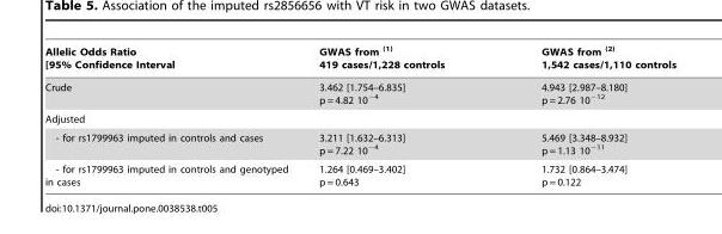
<table><thead><tr><td>Allelic Odds Ratio [95% Confidence Interval</td><td>GWAS from <sup>(1)</sup> 419 cases/1,228 controls</td><td>GWAS from <sup>(2)</sup> 1,542 cases/1,110 controls</td></tr></thead><tbody><tr><td>Crude</td><td>3.462 [1.754–6.835] p = 4.82 10<sup>−4</sup></td><td>4.943 [2.987–8.180] p = 2.76 10<sup>−12</sup></td></tr><tr><td colspan="3">Adjusted</td></tr><tr><td>- for rs1799963 imputed in controls and cases</td><td>3.211 [1.632–6.313] p = 7.22 10<sup>−4</sup></td><td>5.469 [3.348–8.932] p = 1.13 10<sup>−11</sup></td></tr><tr><td>- for rs1799963 imputed in controls and genotyped in cases</td><td>1.264 [0.469–3.402] p = 0.643</td><td>1.732 [0.864–3.474] p = 0.122</td></tr></tbody></table>